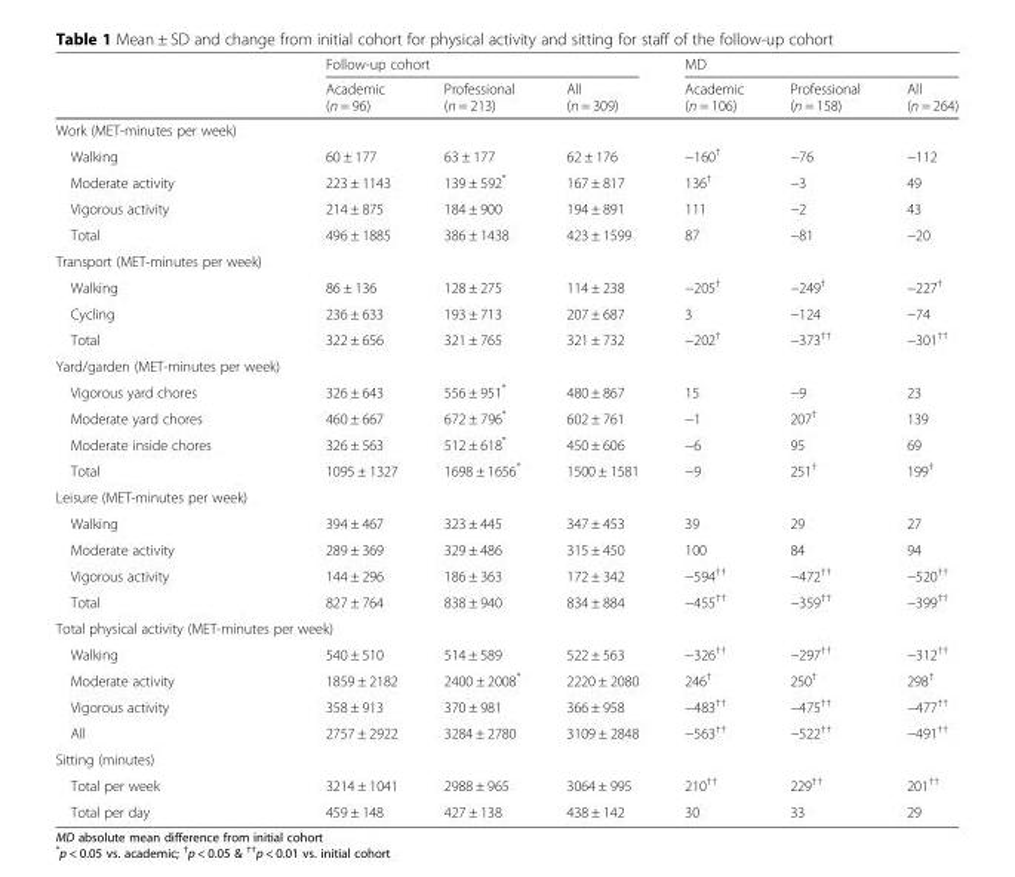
<table><thead><tr><td rowspan="2"></td><td colspan="3">Follow-up cohort</td><td colspan="3">MD</td></tr><tr><td>Academic (n = 96)</td><td>Professional (n = 213)</td><td>All (n = 309)</td><td>Academic (n = 106)</td><td>Professional (n = 158)</td><td>All (n = 264)</td></tr></thead><tbody><tr><td colspan="7">Work (MET-minutes per week)</td></tr><tr><td>Walking</td><td>60 ± 177</td><td>63 ± 177</td><td>62 ± 176</td><td>−160<sup>†</sup></td><td>−76</td><td>−112</td></tr><tr><td>Moderate activity</td><td>223 ± 1143</td><td>139 ± 592*</td><td>167 ± 817</td><td>136<sup>†</sup></td><td>−3</td><td>49</td></tr><tr><td>Vigorous activity</td><td>214 ± 875</td><td>184 ± 900</td><td>194 ± 891</td><td>111</td><td>−2</td><td>43</td></tr><tr><td>Total</td><td>496 ± 1885</td><td>386 ± 1438</td><td>423 ± 1599</td><td>87</td><td>−81</td><td>−20</td></tr><tr><td colspan="7">Transport (MET-minutes per week)</td></tr><tr><td>Walking</td><td>86 ± 136</td><td>128 ± 275</td><td>114 ± 238</td><td>−205<sup>†</sup></td><td>−249<sup>†</sup></td><td>−227<sup>†</sup></td></tr><tr><td>Cycling</td><td>236 ± 633</td><td>193 ± 713</td><td>207 ± 687</td><td>3</td><td>−124</td><td>−74</td></tr><tr><td>Total</td><td>322 ± 656</td><td>321 ± 765</td><td>321 ± 732</td><td>−202<sup>†</sup></td><td>−373<sup>††</sup></td><td>−301<sup>††</sup></td></tr><tr><td colspan="7">Yard/garden (MET-minutes per week)</td></tr><tr><td>Vigorous yard chores</td><td>326 ± 643</td><td>556 ± 951*</td><td>480 ± 867</td><td>15</td><td>−9</td><td>23</td></tr><tr><td>Moderate yard chores</td><td>460 ± 667</td><td>672 ± 796*</td><td>602 ± 761</td><td>−1</td><td>207<sup>†</sup></td><td>139</td></tr><tr><td>Moderate inside chores</td><td>326 ± 563</td><td>512 ± 618*</td><td>450 ± 606</td><td>−6</td><td>95</td><td>69</td></tr><tr><td>Total</td><td>1095 ± 1327</td><td>1698 ± 1656*</td><td>1500 ± 1581</td><td>−9</td><td>251<sup>†</sup></td><td>199<sup>†</sup></td></tr><tr><td colspan="7">Leisure (MET-minutes per week)</td></tr><tr><td>Walking</td><td>394 ± 467</td><td>323 ± 445</td><td>347 ± 453</td><td>39</td><td>29</td><td>27</td></tr><tr><td>Moderate activity</td><td>289 ± 369</td><td>329 ± 486</td><td>315 ± 450</td><td>100</td><td>84</td><td>94</td></tr><tr><td>Vigorous activity</td><td>144 ± 296</td><td>186 ± 363</td><td>172 ± 342</td><td>−594<sup>††</sup></td><td>−472<sup>††</sup></td><td>−520<sup>††</sup></td></tr><tr><td>Total</td><td>827 ± 764</td><td>838 ± 940</td><td>834 ± 884</td><td>−455<sup>††</sup></td><td>−359<sup>††</sup></td><td>−399<sup>††</sup></td></tr><tr><td colspan="7">Total physical activity (MET-minutes per week)</td></tr><tr><td>Walking</td><td>540 ± 510</td><td>514 ± 589</td><td>522 ± 563</td><td>−326<sup>††</sup></td><td>−297<sup>††</sup></td><td>−312<sup>††</sup></td></tr><tr><td>Moderate activity</td><td>1859 ± 2182</td><td>2400 ± 2008*</td><td>2220 ± 2080</td><td>246<sup>†</sup></td><td>250<sup>†</sup></td><td>298<sup>†</sup></td></tr><tr><td>Vigorous activity</td><td>358 ± 913</td><td>370 ± 981</td><td>366 ± 958</td><td>−483<sup>††</sup></td><td>−475<sup>††</sup></td><td>−477<sup>††</sup></td></tr><tr><td>All</td><td>2757 ± 2922</td><td>3284 ± 2780</td><td>3109 ± 2848</td><td>−563<sup>††</sup></td><td>−522<sup>††</sup></td><td>−491<sup>††</sup></td></tr><tr><td colspan="7">Sitting (minutes)</td></tr><tr><td>Total per week</td><td>3214 ± 1041</td><td>2988 ± 965</td><td>3064 ± 995</td><td>210<sup>††</sup></td><td>229<sup>††</sup></td><td>201<sup>††</sup></td></tr><tr><td>Total per day</td><td>459 ± 148</td><td>427 ± 138</td><td>438 ± 142</td><td>30</td><td>33</td><td>29</td></tr></tbody></table>